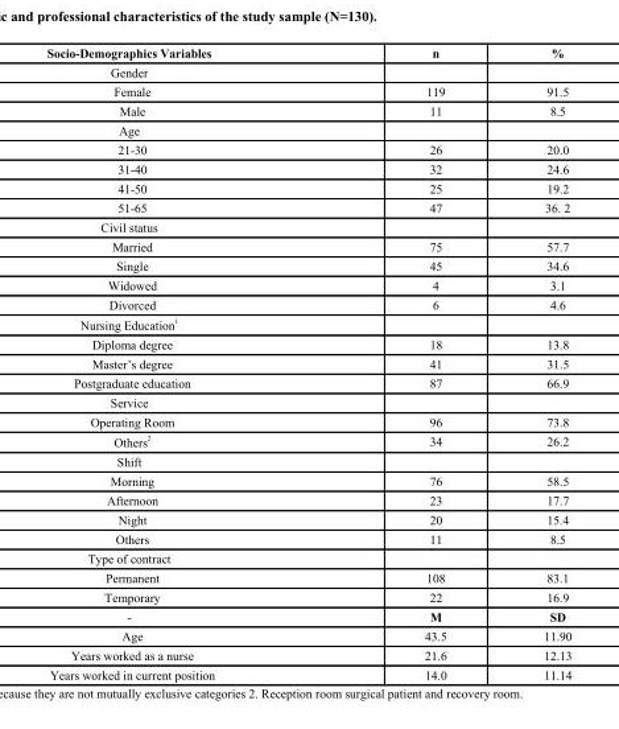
<table><thead><tr><td>Socio-Demographics Variables</td><td>n</td><td>%</td></tr></thead><tbody><tr><td colspan="3">Gender</td></tr><tr><td>Female</td><td>119</td><td>91.5</td></tr><tr><td>Male</td><td>11</td><td>8.5</td></tr><tr><td colspan="3">Age</td></tr><tr><td>21-30</td><td>26</td><td>20.0</td></tr><tr><td>31-40</td><td>32</td><td>24.6</td></tr><tr><td>41-50</td><td>25</td><td>19.2</td></tr><tr><td>51-65</td><td>47</td><td>36. 2</td></tr><tr><td colspan="3">Civil status</td></tr><tr><td>Married</td><td>75</td><td>57.7</td></tr><tr><td>Single</td><td>45</td><td>34.6</td></tr><tr><td>Widowed</td><td>4</td><td>3.1</td></tr><tr><td>Divorced</td><td>6</td><td>4.6</td></tr><tr><td colspan="3">Nursing Education <sup>1</sup></td></tr><tr><td>Diploma degree</td><td>18</td><td>13.8</td></tr><tr><td>Master’s degree</td><td>41</td><td>31.5</td></tr><tr><td>Postgraduate education</td><td>87</td><td>66.9</td></tr><tr><td colspan="3">Service</td></tr><tr><td>Operating Room</td><td>96</td><td>73.8</td></tr><tr><td>Others <sup>2</sup></td><td>34</td><td>26.2</td></tr><tr><td colspan="3">Shift</td></tr><tr><td>Morning</td><td>76</td><td>58.5</td></tr><tr><td>Afternoon</td><td>23</td><td>17.7</td></tr><tr><td>Night</td><td>20</td><td>15.4</td></tr><tr><td>Others</td><td>11</td><td>8.5</td></tr><tr><td colspan="3">Type of contract</td></tr><tr><td>Permanent</td><td>108</td><td>83.1</td></tr><tr><td>Temporary</td><td>22</td><td>16.9</td></tr><tr><td>-</td><td>M</td><td>SD</td></tr><tr><td>Age</td><td>43.5</td><td>11.90</td></tr><tr><td>Years worked as a nurse</td><td>21.6</td><td>12.13</td></tr><tr><td>Years worked in current position</td><td>14.0</td><td>11.14</td></tr></tbody></table>